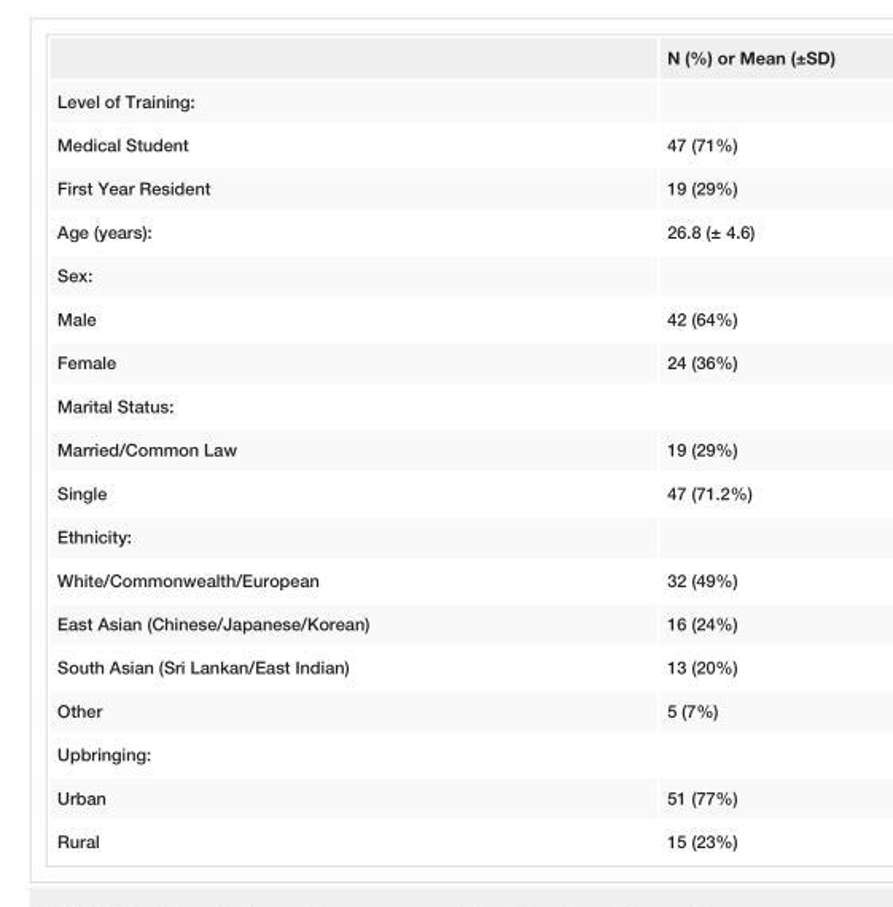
<table><thead><tr><td></td><td>N (%) or Mean (±SD)</td></tr></thead><tbody><tr><td colspan="2">Level of Training:</td></tr><tr><td>Medical Student</td><td>47 (71%)</td></tr><tr><td>First Year Resident</td><td>19 (29%)</td></tr><tr><td>Age (years):</td><td>26.8 (± 4.6)</td></tr><tr><td colspan="2">Sex:</td></tr><tr><td>Male</td><td>42 (64%)</td></tr><tr><td>Female</td><td>24 (36%)</td></tr><tr><td colspan="2">Marital Status:</td></tr><tr><td>Married/Common Law</td><td>19 (29%)</td></tr><tr><td>Single</td><td>47 (71.2%)</td></tr><tr><td colspan="2">Ethnicity:</td></tr><tr><td>White/Commonwealth/European</td><td>32 (49%)</td></tr><tr><td>East Asian (Chinese/Japanese/Korean)</td><td>16 (24%)</td></tr><tr><td>South Asian (Sri Lankan/East Indian)</td><td>13 (20%)</td></tr><tr><td>Other</td><td>5 (7%)</td></tr><tr><td colspan="2">Upbringing:</td></tr><tr><td>Urban</td><td>51 (77%)</td></tr><tr><td>Rural</td><td>15 (23%)</td></tr></tbody></table>